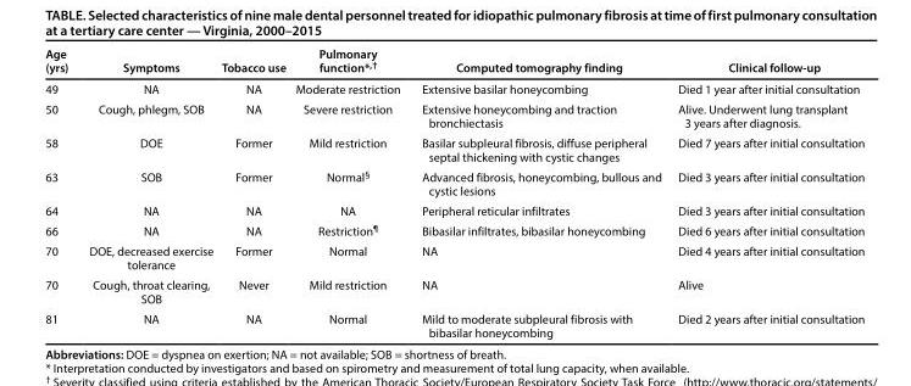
<table><thead><tr><td>Age (yrs)</td><td>Symptoms</td><td>Tobacco use</td><td>Pulmonary function*<sup>,†</sup></td><td>Computed tomography finding</td><td>Clinical follow-up</td></tr></thead><tbody><tr><td>49</td><td>NA</td><td>NA</td><td>Moderate restriction</td><td>Extensive basilar honeycombing</td><td>Died 1 year after initial consultation</td></tr><tr><td>50</td><td>Cough, phlegm, SOB</td><td>NA</td><td>Severe restriction</td><td>Extensive honeycombing and traction bronchiectasis</td><td>Alive. Underwent lung transplant 3 years after diagnosis.</td></tr><tr><td>58</td><td>DOE</td><td>Former</td><td>Mild restriction</td><td>Basilar subpleural fibrosis, diffuse peripheral septal thickening with cystic changes</td><td>Died 7 years after initial consultation</td></tr><tr><td>63</td><td>SOB</td><td>Former</td><td>Normal<sup>§</sup></td><td>Advanced fibrosis, honeycombing, bullous and cystic lesions</td><td>Died 3 years after initial consultation</td></tr><tr><td>64</td><td>NA</td><td>NA</td><td>NA</td><td>Peripheral reticular infiltrates</td><td>Died 3 years after initial consultation</td></tr><tr><td>66</td><td>NA</td><td>NA</td><td>Restriction<sup>¶</sup></td><td>Bibasilar infiltrates, bibasilar honeycombing</td><td>Died 6 years after initial consultation</td></tr><tr><td>70</td><td>DOE, decreased exercise tolerance</td><td>Former</td><td>Normal</td><td>NA</td><td>Died 4 years after initial consultation</td></tr><tr><td>70</td><td>Cough, throat clearing, SOB</td><td>Never</td><td>Mild restriction</td><td>NA</td><td>Alive</td></tr><tr><td>81</td><td>NA</td><td>NA</td><td>Normal</td><td>Mild to moderate subpleural fibrosis with bibasilar honeycombing</td><td>Died 2 years after initial consultation</td></tr></tbody></table>